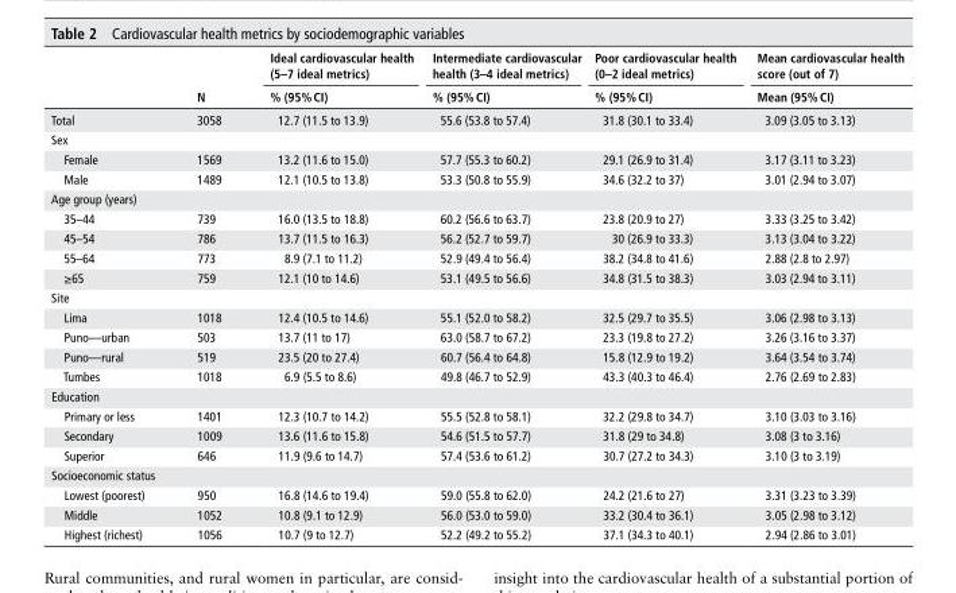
<table><thead><tr><td rowspan="2"></td><td rowspan="2">n</td><td rowspan="2">Ideal cardiovascular health (5–7 ideal metrics) % (95% CI)</td><td rowspan="2">Intermediate cardiovascular health (3–4 ideal metrics) % (95% CI)</td><td rowspan="2">Poor cardiovascular health (0–2 ideal metrics) % (95% CI)</td><td rowspan="2">Mean cardiovascular health score (out of 7) Mean (95% CI)</td></tr><tr></tr></thead><tbody><tr><td>Total</td><td>3058</td><td>12.7 (11.5 to 13.9)</td><td>55.6 (53.8 to 57.4)</td><td>31.8 (30.1 to 33.4)</td><td>3.09 (3.05 to 3.13)</td></tr><tr><td colspan="6">Sex</td></tr><tr><td>Female</td><td>1569</td><td>13.2 (11.6 to 15.0)</td><td>57.7 (55.3 to 60.2)</td><td>29.1 (26.9 to 31.4)</td><td>3.17 (3.11 to 3.23)</td></tr><tr><td>Male</td><td>1489</td><td>12.1 (10.5 to 13.8)</td><td>53.3 (50.8 to 55.9)</td><td>34.6 (32.2 to 37)</td><td>3.01 (2.94 to 3.07)</td></tr><tr><td colspan="6">Age group (years)</td></tr><tr><td>35–44</td><td>739</td><td>16.0 (13.5 to 18.8)</td><td>60.2 (56.6 to 63.7)</td><td>23.8 (20.9 to 27)</td><td>3.33 (3.25 to 3.42)</td></tr><tr><td>45–54</td><td>786</td><td>13.7 (11.5 to 16.3)</td><td>56.2 (52.7 to 59.7)</td><td>30 (26.9 to 33.3)</td><td>3.13 (3.04 to 3.22)</td></tr><tr><td>55–64</td><td>773</td><td>8.9 (7.1 to 11.2)</td><td>52.9 (49.4 to 56.4)</td><td>38.2 (34.8 to 41.6)</td><td>2.88 (2.8 to 2.97)</td></tr><tr><td>≥65</td><td>759</td><td>12.1 (10 to 14.6)</td><td>53.1 (49.5 to 56.6)</td><td>34.8 (31.5 to 38.3)</td><td>3.03 (2.94 to 3.11)</td></tr><tr><td colspan="6">Site</td></tr><tr><td>Lima</td><td>1018</td><td>12.4 (10.5 to 14.6)</td><td>55.1 (52.0 to 58.2)</td><td>32.5 (29.7 to 35.5)</td><td>3.06 (2.98 to 3.13)</td></tr><tr><td>Puno—urban</td><td>503</td><td>13.7 (11 to 17)</td><td>63.0 (58.7 to 67.2)</td><td>23.3 (19.8 to 27.2)</td><td>3.26 (3.16 to 3.37)</td></tr><tr><td>Puno—rural</td><td>519</td><td>23.5 (20 to 27.4)</td><td>60.7 (56.4 to 64.8)</td><td>15.8 (12.9 to 19.2)</td><td>3.64 (3.54 to 3.74)</td></tr><tr><td>Tumbes</td><td>1018</td><td>6.9 (5.5 to 8.6)</td><td>49.8 (46.7 to 52.9)</td><td>43.3 (40.3 to 46.4)</td><td>2.76 (2.69 to 2.83)</td></tr><tr><td colspan="6">Education</td></tr><tr><td>Primary or less</td><td>1401</td><td>12.3 (10.7 to 14.2)</td><td>55.5 (52.8 to 58.1)</td><td>32.2 (29.8 to 34.7)</td><td>3.10 (3.03 to 3.16)</td></tr><tr><td>Secondary</td><td>1009</td><td>13.6 (11.6 to 15.8)</td><td>54.6 (51.5 to 57.7)</td><td>31.8 (29 to 34.8)</td><td>3.08 (3 to 3.16)</td></tr><tr><td>Superior</td><td>646</td><td>11.9 (9.6 to 14.7)</td><td>57.4 (53.6 to 61.2)</td><td>30.7 (27.2 to 34.3)</td><td>3.10 (3 to 3.19)</td></tr><tr><td colspan="6">Socioeconomic status</td></tr><tr><td>Lowest (poorest)</td><td>950</td><td>16.8 (14.6 to 19.4)</td><td>59.0 (55.8 to 62.0)</td><td>24.2 (21.6 to 27)</td><td>3.31 (3.23 to 3.39)</td></tr><tr><td>Middle</td><td>1052</td><td>10.8 (9.1 to 12.9)</td><td>56.0 (53.0 to 59.0)</td><td>33.2 (30.4 to 36.1)</td><td>3.05 (2.98 to 3.12)</td></tr><tr><td>Highest (richest)</td><td>1056</td><td>10.7 (9 to 12.7)</td><td>52.2 (49.2 to 55.2)</td><td>37.1 (34.3 to 40.1)</td><td>2.94 (2.86 to 3.01)</td></tr></tbody></table>